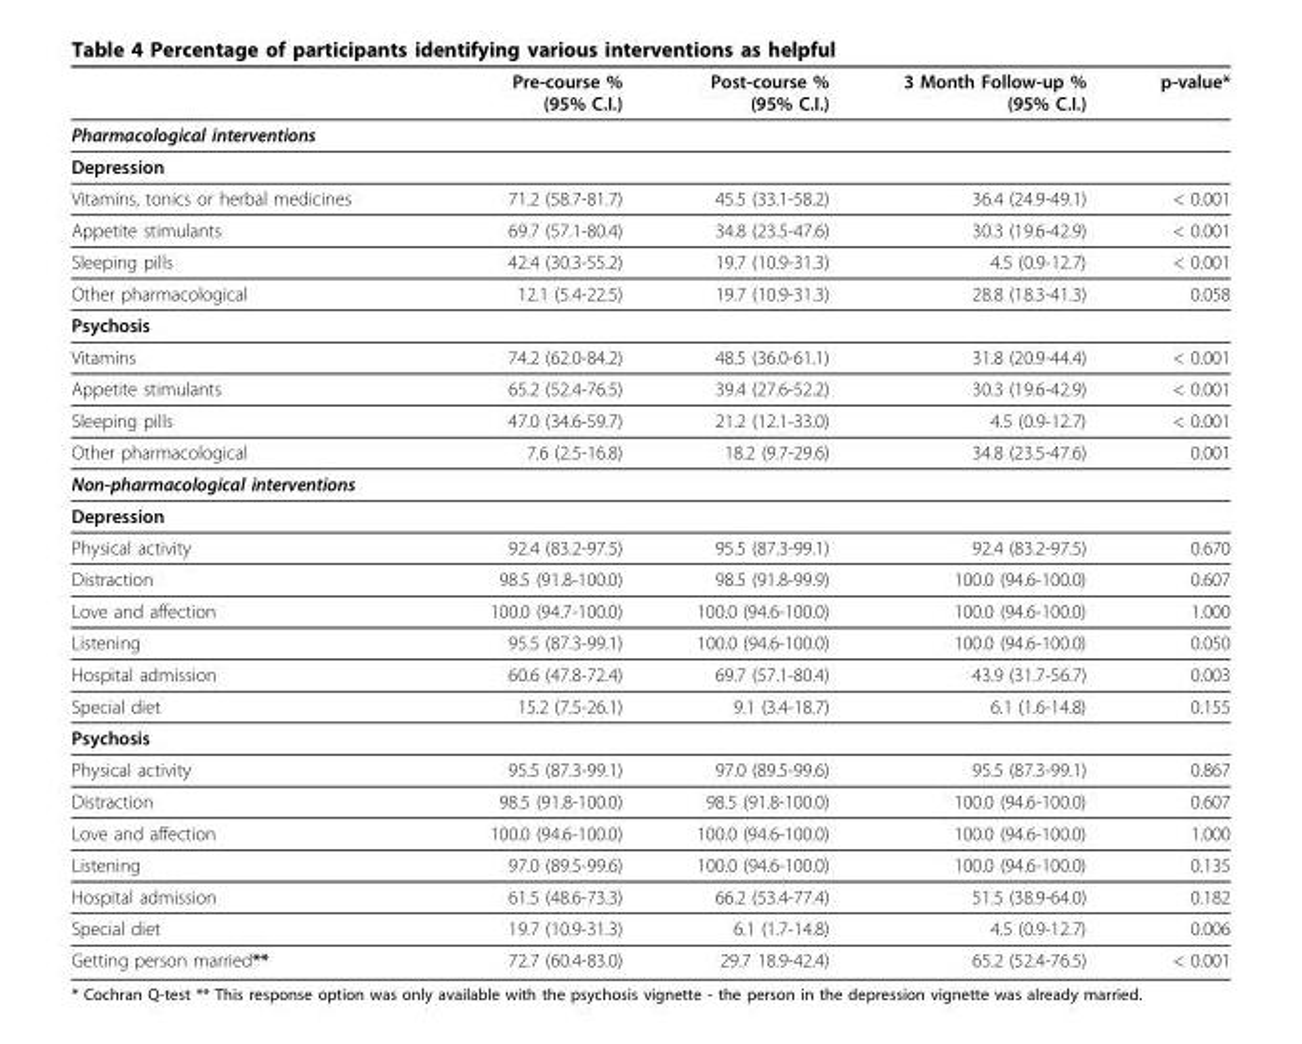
<table><thead><tr><td></td><td>Pre-course % (95% C.I.)</td><td>Post-course % (95% C.I.)</td><td>3 Month Follow-up % (95% C.I.)</td><td>p-value*</td></tr></thead><tbody><tr><td colspan="5">Pharmacological interventions</td></tr><tr><td colspan="5">Depression</td></tr><tr><td>Vitamins, tonics or herbal medicines</td><td>71.2 (58.7-81.7)</td><td>45.5 (33.1-58.2)</td><td>36.4 (24.9-49.1)</td><td>&lt; 0.001</td></tr><tr><td>Appetite stimulants</td><td>69.7 (57.1-80.4)</td><td>34.8 (23.5-47.6)</td><td>30.3 (19.6-42.9)</td><td>&lt; 0.001</td></tr><tr><td>Sleeping pills</td><td>42.4 (30.3-55.2)</td><td>19.7 (10.9-31.3)</td><td>4.5 (0.9-12.7)</td><td>&lt; 0.001</td></tr><tr><td>Other pharmacological</td><td>12.1 (5.4-22.5)</td><td>19.7 (10.9-31.3)</td><td>28.8 (18.3-41.3)</td><td>0.058</td></tr><tr><td colspan="5">Psychosis</td></tr><tr><td>Vitamins</td><td>74.2 (62.0-84.2)</td><td>48.5 (36.0-61.1)</td><td>31.8 (20.9-44.4)</td><td>&lt; 0.001</td></tr><tr><td>Appetite stimulants</td><td>65.2 (52.4-76.5)</td><td>39.4 (27.6-52.2)</td><td>30.3 (19.6-42.9)</td><td>&lt; 0.001</td></tr><tr><td>Sleeping pills</td><td>47.0 (34.6-59.7)</td><td>21.2 (12.1-33.0)</td><td>4.5 (0.9-12.7)</td><td>&lt; 0.001</td></tr><tr><td>Other pharmacological</td><td>7.6 (2.5-16.8)</td><td>18.2 (9.7-29.6)</td><td>34.8 (23.5-47.6)</td><td>0.001</td></tr><tr><td colspan="5">Non-pharmacological interventions</td></tr><tr><td colspan="5">Depression</td></tr><tr><td>Physical activity</td><td>92.4 (83.2-97.5)</td><td>95.5 (87.3-99.1)</td><td>92.4 (83.2-97.5)</td><td>0.670</td></tr><tr><td>Distraction</td><td>98.5 (91.8-100.0)</td><td>98.5 (91.8-99.9)</td><td>100.0 (94.6-100.0)</td><td>0.607</td></tr><tr><td>Love and affection</td><td>100.0 (94.7-100.0)</td><td>100.0 (94.6-100.0)</td><td>100.0 (94.6-100.0)</td><td>1.000</td></tr><tr><td>Listening</td><td>95.5 (87.3-99.1)</td><td>100.0 (94.6-100.0)</td><td>100.0 (94.6-100.0)</td><td>0.050</td></tr><tr><td>Hospital admission</td><td>60.6 (47.8-72.4)</td><td>69.7 (57.1-80.4)</td><td>43.9 (31.7-56.7)</td><td>0.003</td></tr><tr><td>Special diet</td><td>15.2 (7.5-26.1)</td><td>9.1 (3.4-18.7)</td><td>6.1 (1.6-14.8)</td><td>0.155</td></tr><tr><td colspan="5">Psychosis</td></tr><tr><td>Physical activity</td><td>95.5 (87.3-99.1)</td><td>97.0 (89.5-99.6)</td><td>95.5 (87.3-99.1)</td><td>0.867</td></tr><tr><td>Distraction</td><td>98.5 (91.8-100.0)</td><td>98.5 (91.8-100.0)</td><td>100.0 (94.6-100.0)</td><td>0.607</td></tr><tr><td>Love and affection</td><td>100.0 (94.6-100.0)</td><td>100.0 (94.6-100.0)</td><td>100.0 (94.6-100.0)</td><td>1.000</td></tr><tr><td>Listening</td><td>97.0 (89.5-99.6)</td><td>100.0 (94.6-100.0)</td><td>100.0 (94.6-100.0)</td><td>0.135</td></tr><tr><td>Hospital admission</td><td>61.5 (48.6-73.3)</td><td>66.2 (53.4-77.4)</td><td>51.5 (38.9-64.0)</td><td>0.182</td></tr><tr><td>Special diet</td><td>19.7 (10.9-31.3)</td><td>6.1 (1.7-14.8)</td><td>4.5 (0.9-12.7)</td><td>0.006</td></tr><tr><td>Getting person married**</td><td>72.7 (60.4-83.0)</td><td>29.7 18.9-42.4)</td><td>65.2 (52.4-76.5)</td><td>&lt; 0.001</td></tr></tbody></table>